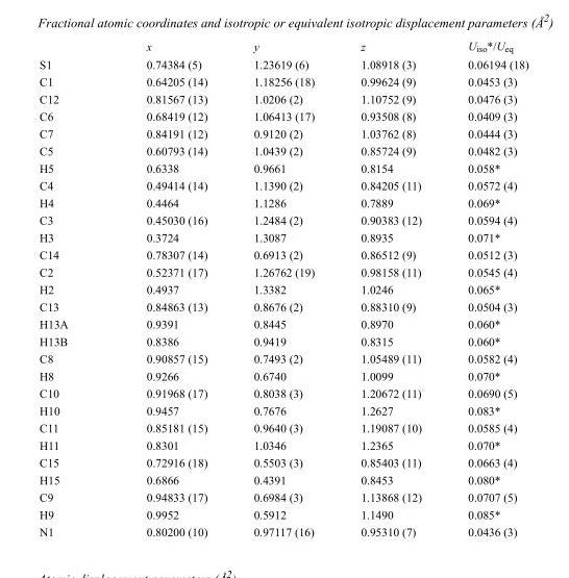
<table><thead><tr><td></td><td>x</td><td>y</td><td>z</td><td>U<sub>iso</sub>*/U<sub>eq</sub></td></tr></thead><tbody><tr><td>S1</td><td>0.74384 (5)</td><td>1.23619 (6)</td><td>1.08918 (3)</td><td>0.06194 (18)</td></tr><tr><td>C1</td><td>0.64205 (14)</td><td>1.18256 (18)</td><td>0.99624 (9)</td><td>0.0453 (3)</td></tr><tr><td>C12</td><td>0.81567 (13)</td><td>1.0206 (2)</td><td>1.10752 (9)</td><td>0.0476 (3)</td></tr><tr><td>C6</td><td>0.68419 (12)</td><td>1.06413 (17)</td><td>0.93508 (8)</td><td>0.0409 (3)</td></tr><tr><td>C7</td><td>0.84191 (12)</td><td>0.9120 (2)</td><td>1.03762 (8)</td><td>0.0444 (3)</td></tr><tr><td>C5</td><td>0.60793 (14)</td><td>1.0439 (2)</td><td>0.85724 (9)</td><td>0.0482 (3)</td></tr><tr><td>H5</td><td>0.6338</td><td>0.9661</td><td>0.8154</td><td>0.058*</td></tr><tr><td>C4</td><td>0.49414 (14)</td><td>1.1390 (2)</td><td>0.84205 (11)</td><td>0.0572 (4)</td></tr><tr><td>H4</td><td>0.4464</td><td>1.1286</td><td>0.7889</td><td>0.069*</td></tr><tr><td>C3</td><td>0.45030 (16)</td><td>1.2484 (2)</td><td>0.90383 (12)</td><td>0.0594 (4)</td></tr><tr><td>H3</td><td>0.3724</td><td>1.3087</td><td>0.8935</td><td>0.071*</td></tr><tr><td>C14</td><td>0.78307 (14)</td><td>0.6913 (2)</td><td>0.86512 (9)</td><td>0.0512 (3)</td></tr><tr><td>C2</td><td>0.52371 (17)</td><td>1.26762 (19)</td><td>0.98158 (11)</td><td>0.0545 (4)</td></tr><tr><td>H2</td><td>0.4937</td><td>1.3382</td><td>1.0246</td><td>0.065*</td></tr><tr><td>C13</td><td>0.84863 (13)</td><td>0.8676 (2)</td><td>0.88310 (9)</td><td>0.0504 (3)</td></tr><tr><td>H13A</td><td>0.9391</td><td>0.8445</td><td>0.8970</td><td>0.060*</td></tr><tr><td>H13B</td><td>0.8386</td><td>0.9419</td><td>0.8315</td><td>0.060*</td></tr><tr><td>C8</td><td>0.90857 (15)</td><td>0.7493 (2)</td><td>1.05489 (11)</td><td>0.0582 (4)</td></tr><tr><td>H8</td><td>0.9266</td><td>0.6740</td><td>1.0099</td><td>0.070*</td></tr><tr><td>C10</td><td>0.91968 (17)</td><td>0.8038 (3)</td><td>1.20672 (11)</td><td>0.0690 (5)</td></tr><tr><td>H10</td><td>0.9457</td><td>0.7676</td><td>1.2627</td><td>0.083*</td></tr><tr><td>C11</td><td>0.85181 (15)</td><td>0.9640 (3)</td><td>1.19087 (10)</td><td>0.0585 (4)</td></tr><tr><td>H11</td><td>0.8301</td><td>1.0346</td><td>1.2365</td><td>0.070*</td></tr><tr><td>C15</td><td>0.72916 (18)</td><td>0.5503 (3)</td><td>0.85403 (11)</td><td>0.0663 (4)</td></tr><tr><td>H15</td><td>0.6866</td><td>0.4391</td><td>0.8453</td><td>0.080*</td></tr><tr><td>C9</td><td>0.94833 (17)</td><td>0.6984 (3)</td><td>1.13868 (12)</td><td>0.0707 (5)</td></tr><tr><td>H9</td><td>0.9952</td><td>0.5912</td><td>1.1490</td><td>0.085*</td></tr><tr><td>N1</td><td>0.80200 (10)</td><td>0.97117 (16)</td><td>0.95310 (7)</td><td>0.0436 (3)</td></tr></tbody></table>